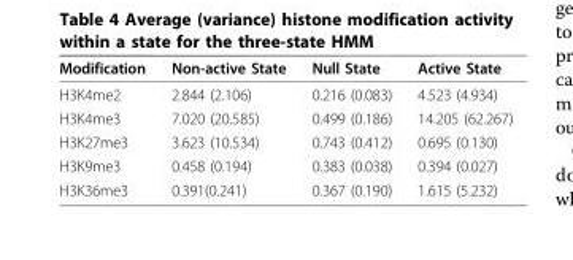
<table><thead><tr><td>Modification</td><td>Non-active State</td><td>Null State</td><td>Active State</td></tr></thead><tbody><tr><td>H3K4me2</td><td>2.844 (2.106)</td><td>0.216 (0.083)</td><td>4.523 (4.934)</td></tr><tr><td>H3K4me3</td><td>7.020 (20.585)</td><td>0.499 (0.186)</td><td>14.205 (62.267)</td></tr><tr><td>H3K27me3</td><td>3.623 (10.534)</td><td>0.743 (0.412)</td><td>0.695 (0.130)</td></tr><tr><td>H3K9me3</td><td>0.458 (0.194)</td><td>0.383 (0.038)</td><td>0.394 (0.027)</td></tr><tr><td>H3K36me3</td><td>0.391(0.241)</td><td>0.367 (0.190)</td><td>1.615 (5.232)</td></tr></tbody></table>